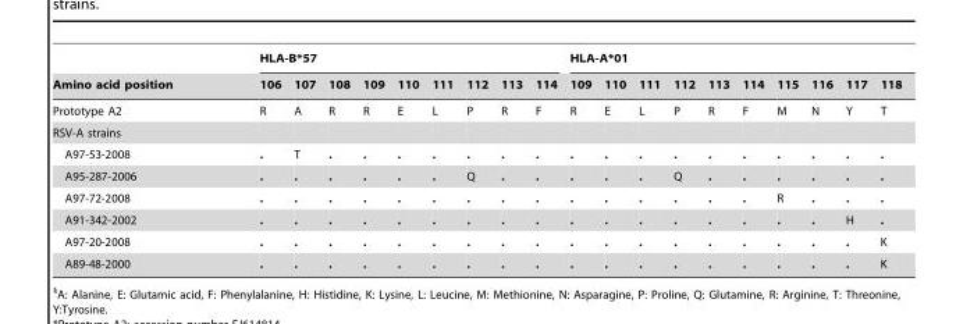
<table><thead><tr><td rowspan="2">Amino acid position</td><td colspan="9">HLA-B*57</td><td colspan="10">HLA-A*01</td></tr><tr><td>106</td><td>107</td><td>108</td><td>109</td><td>110</td><td>111</td><td>112</td><td>113</td><td>114</td><td>109</td><td>110</td><td>111</td><td>112</td><td>113</td><td>114</td><td>115</td><td>116</td><td>117</td><td>118</td></tr></thead><tbody><tr><td>Prototype A2</td><td>R</td><td>A</td><td>R</td><td>R</td><td>E</td><td>L</td><td>P</td><td>R</td><td>F</td><td>R</td><td>E</td><td>L</td><td>P</td><td>R</td><td>F</td><td>M</td><td>N</td><td>Y</td><td>T</td></tr><tr><td colspan="20">RSV-A strains</td></tr><tr><td>A97-53-2008</td><td>.</td><td>T</td><td>.</td><td>.</td><td>.</td><td>.</td><td>.</td><td>.</td><td>.</td><td>.</td><td>.</td><td>.</td><td>.</td><td>.</td><td>.</td><td>.</td><td>.</td><td>.</td><td>.</td></tr><tr><td>A95-287-2006</td><td>.</td><td>.</td><td>.</td><td>.</td><td>.</td><td>.</td><td>Q</td><td>.</td><td>.</td><td>.</td><td>.</td><td>.</td><td>Q</td><td>.</td><td>.</td><td>.</td><td>.</td><td>.</td><td>.</td></tr><tr><td>A97-72-2008</td><td>.</td><td>.</td><td>.</td><td>.</td><td>.</td><td>.</td><td>.</td><td>.</td><td>.</td><td>.</td><td>.</td><td>.</td><td>.</td><td>.</td><td>.</td><td>R</td><td>.</td><td>.</td><td>.</td></tr><tr><td>A91-342-2002</td><td>.</td><td>.</td><td>.</td><td>.</td><td>.</td><td>.</td><td>.</td><td>.</td><td>.</td><td>.</td><td>.</td><td>.</td><td>.</td><td>.</td><td>.</td><td>.</td><td>.</td><td>H</td><td>.</td></tr><tr><td>A97-20-2008</td><td>.</td><td>.</td><td>.</td><td>.</td><td>.</td><td>.</td><td>.</td><td>.</td><td>.</td><td>.</td><td>.</td><td>.</td><td>.</td><td>.</td><td>.</td><td>.</td><td>.</td><td>.</td><td>K</td></tr><tr><td>A89-48-2000</td><td>.</td><td>.</td><td>.</td><td>.</td><td>.</td><td>.</td><td>.</td><td>.</td><td>.</td><td>.</td><td>.</td><td>.</td><td>.</td><td>.</td><td>.</td><td>.</td><td>.</td><td>.</td><td>K</td></tr></tbody></table>